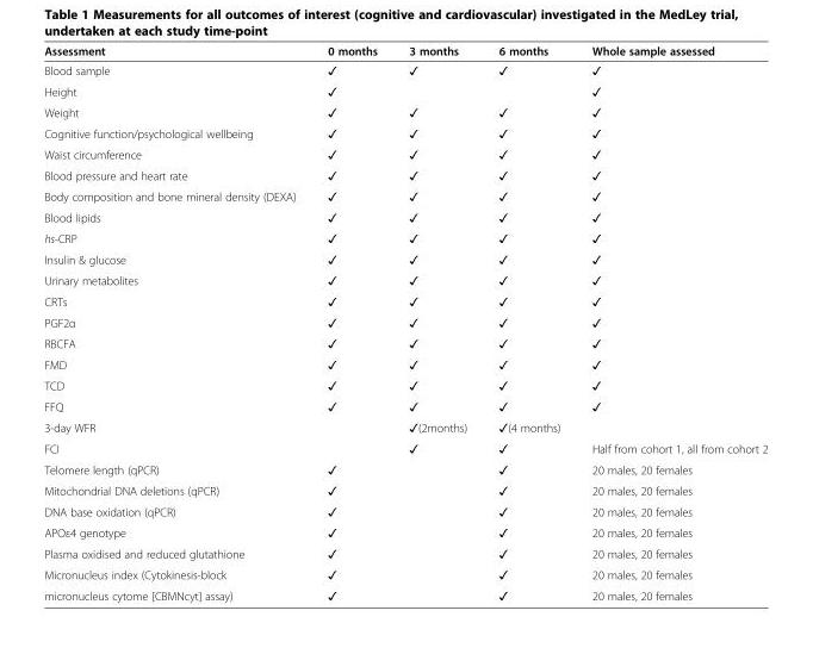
<table><thead><tr><td>Assessment</td><td>0 months</td><td>3 months</td><td>6 months</td><td>Whole sample assessed</td></tr></thead><tbody><tr><td>Blood sample</td><td>✓</td><td>✓</td><td>✓</td><td>✓</td></tr><tr><td>Height</td><td>✓</td><td></td><td></td><td>✓</td></tr><tr><td>Weight</td><td>✓</td><td>✓</td><td>✓</td><td>✓</td></tr><tr><td>Cognitive function/psychological wellbeing</td><td>✓</td><td>✓</td><td>✓</td><td>✓</td></tr><tr><td>Waist circumference</td><td>✓</td><td>✓</td><td>✓</td><td>✓</td></tr><tr><td>Blood pressure and heart rate</td><td>✓</td><td>✓</td><td>✓</td><td>✓</td></tr><tr><td>Body composition and bone mineral density (DEXA)</td><td>✓</td><td>✓</td><td>✓</td><td>✓</td></tr><tr><td>Blood lipids</td><td>✓</td><td>✓</td><td>✓</td><td>✓</td></tr><tr><td>hs-CRP</td><td>✓</td><td>✓</td><td>✓</td><td>✓</td></tr><tr><td>Insulin &amp; glucose</td><td>✓</td><td>✓</td><td>✓</td><td>✓</td></tr><tr><td>Urinary metabolites</td><td>✓</td><td>✓</td><td>✓</td><td>✓</td></tr><tr><td>CRTs</td><td>✓</td><td>✓</td><td>✓</td><td>✓</td></tr><tr><td>PGF2α</td><td>✓</td><td>✓</td><td>✓</td><td>✓</td></tr><tr><td>RBCFA</td><td>✓</td><td>✓</td><td>✓</td><td>✓</td></tr><tr><td>FMD</td><td>✓</td><td>✓</td><td>✓</td><td>✓</td></tr><tr><td>TCD</td><td>✓</td><td>✓</td><td>✓</td><td>✓</td></tr><tr><td>FFQ</td><td>✓</td><td>✓</td><td>✓</td><td>✓</td></tr><tr><td>3-day WFR</td><td></td><td>✓(2months)</td><td>✓(4 months)</td><td></td></tr><tr><td>FCI</td><td></td><td>✓</td><td>✓</td><td>Half from cohort 1, all from cohort 2</td></tr><tr><td>Telomere length (qPCR)</td><td>✓</td><td></td><td>✓</td><td>20 males, 20 females</td></tr><tr><td>Mitochondrial DNA deletions (qPCR)</td><td>✓</td><td></td><td>✓</td><td>20 males, 20 females</td></tr><tr><td>DNA base oxidation (qPCR)</td><td>✓</td><td></td><td>✓</td><td>20 males, 20 females</td></tr><tr><td>APOε4 genotype</td><td>✓</td><td></td><td>✓</td><td>20 males, 20 females</td></tr><tr><td>Plasma oxidised and reduced glutathione</td><td>✓</td><td></td><td>✓</td><td>20 males, 20 females</td></tr><tr><td>Micronucleus index (Cytokinesis-block</td><td>✓</td><td></td><td>✓</td><td>20 males, 20 females</td></tr><tr><td>micronucleus cytome [CBMNcyt] assay)</td><td>✓</td><td></td><td>✓</td><td>20 males, 20 females</td></tr></tbody></table>